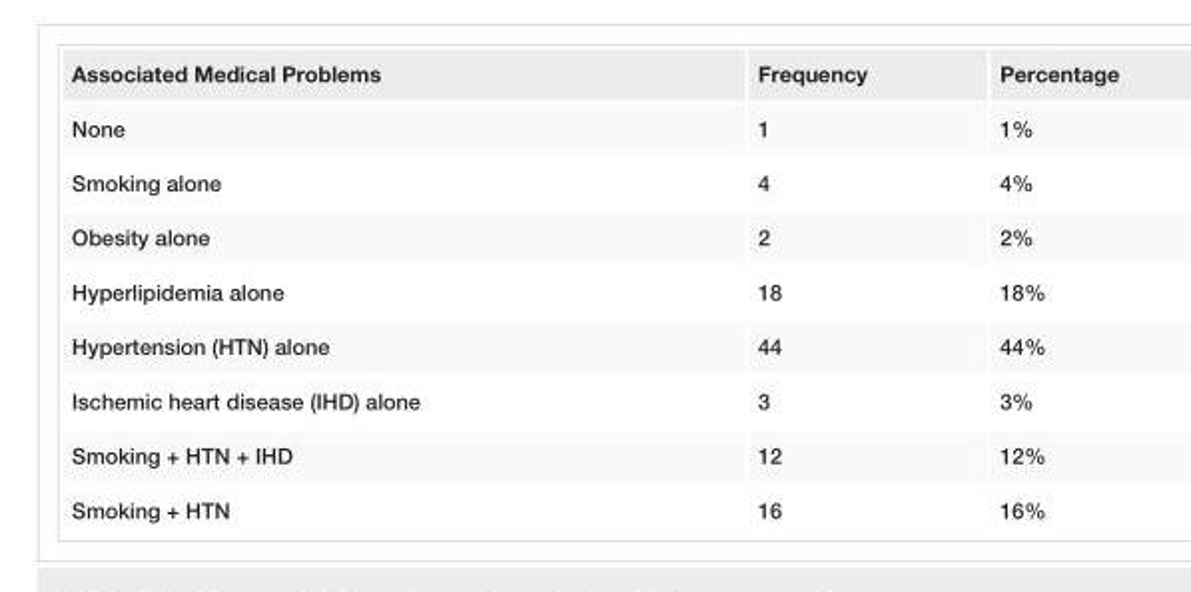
<table><tbody><tr><td>Associated Medical Problems</td><td>Frequency</td><td>Percentage</td></tr><tr><td>None</td><td>1</td><td>1%</td></tr><tr><td>Smoking alone</td><td>4</td><td>4%</td></tr><tr><td>Obesity alone</td><td>2</td><td>2%</td></tr><tr><td>Hyperlipidemia alone</td><td>18</td><td>18%</td></tr><tr><td>Hypertension (HTN) alone</td><td>44</td><td>44%</td></tr><tr><td>Ischemic heart disease (IHD) alone</td><td>3</td><td>3%</td></tr><tr><td>Smoking + HTN + IHD</td><td>12</td><td>12%</td></tr><tr><td>Smoking + HTN</td><td>16</td><td>16%</td></tr></tbody></table>